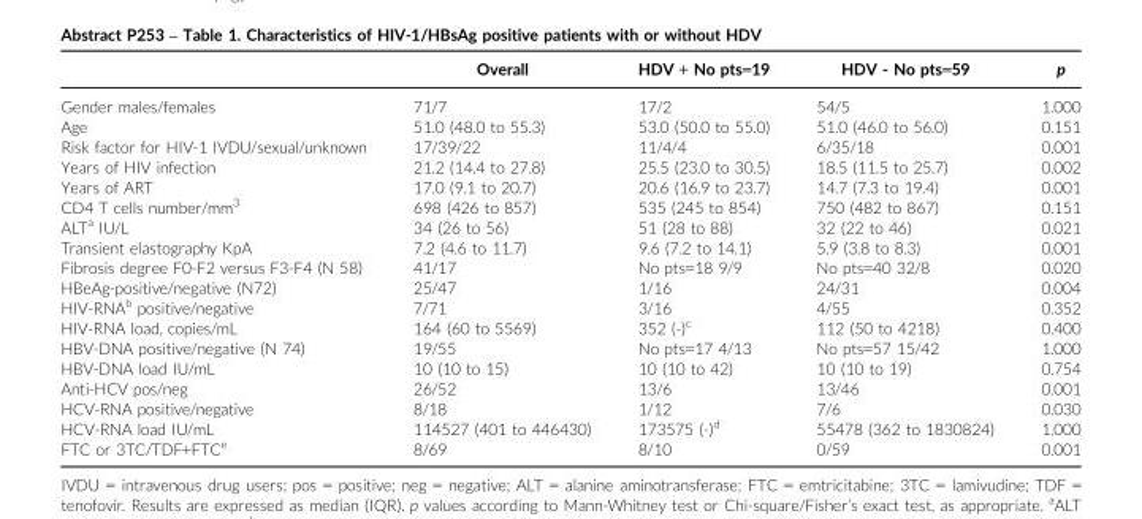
<table><thead><tr><td></td><td>Overall</td><td>HDV + No pts=19</td><td>HDV - No pts=59</td><td>p</td></tr></thead><tbody><tr><td>Gender males/females</td><td>71/7</td><td>17/2</td><td>54/5</td><td>1.000</td></tr><tr><td>Age</td><td>51.0 (48.0 to 55.3)</td><td>53.0 (50.0 to 55.0)</td><td>51.0 (46.0 to 56.0)</td><td>0.151</td></tr><tr><td>Risk factor for HIV-1 IVDU/sexual/unknown</td><td>17/39/22</td><td>11/4/4</td><td>6/35/18</td><td>0.001</td></tr><tr><td>Years of HIV infection</td><td>21.2 (14.4 to 27.8)</td><td>25.5 (23.0 to 30.5)</td><td>18.5 (11.5 to 25.7)</td><td>0.002</td></tr><tr><td>Years of ART</td><td>17.0 (9.1 to 20.7)</td><td>20.6 (16.9 to 23.7)</td><td>14.7 (7.3 to 19.4)</td><td>0.001</td></tr><tr><td>CD4 T cells number/mm<sup>3</sup></td><td>698 (426 to 857)</td><td>535 (245 to 854)</td><td>750 (482 to 867)</td><td>0.151</td></tr><tr><td>ALT<sup>a</sup> IU/L</td><td>34 (26 to 56)</td><td>51 (28 to 88)</td><td>32 (22 to 46)</td><td>0.021</td></tr><tr><td>Transient elastography KpA</td><td>7.2 (4.6 to 11.7)</td><td>9.6 (7.2 to 14.1)</td><td>5.9 (3.8 to 8.3)</td><td>0.001</td></tr><tr><td>Fibrosis degree F0-F2 versus F3-F4 (N 58)</td><td>41/17</td><td>No pts=18 9/9</td><td>No pts=40 32/8</td><td>0.020</td></tr><tr><td>HBeAg-positive/negative (N72)</td><td>25/47</td><td>1/16</td><td>24/31</td><td>0.004</td></tr><tr><td>HIV-RNA<sup>b</sup> positive/negative</td><td>7/71</td><td>3/16</td><td>4/55</td><td>0.352</td></tr><tr><td>HIV-RNA load, copies/mL</td><td>164 (60 to 5569)</td><td>352 (-)<sup>c</sup></td><td>112 (50 to 4218)</td><td>0.400</td></tr><tr><td>HBV-DNA positive/negative (N 74)</td><td>19/55</td><td>No pts=17 4/13</td><td>No pts=57 15/42</td><td>1.000</td></tr><tr><td>HBV-DNA load IU/mL</td><td>10 (10 to 15)</td><td>10 (10 to 42)</td><td>10 (10 to 19)</td><td>0.754</td></tr><tr><td>Anti-HCV pos/neg</td><td>26/52</td><td>13/6</td><td>13/46</td><td>0.001</td></tr><tr><td>HCV-RNA positive/negative</td><td>8/18</td><td>1/12</td><td>7/6</td><td>0.030</td></tr><tr><td>HCV-RNA load IU/mL</td><td>114527 (401 to 446430)</td><td>173575 (-)<sup>d</sup></td><td>55478 (362 to 1830824)</td><td>1.000</td></tr><tr><td>FTC or 3TC/TDF+FTC<sup>e</sup></td><td>8/69</td><td>8/10</td><td>0/59</td><td>0.001</td></tr></tbody></table>